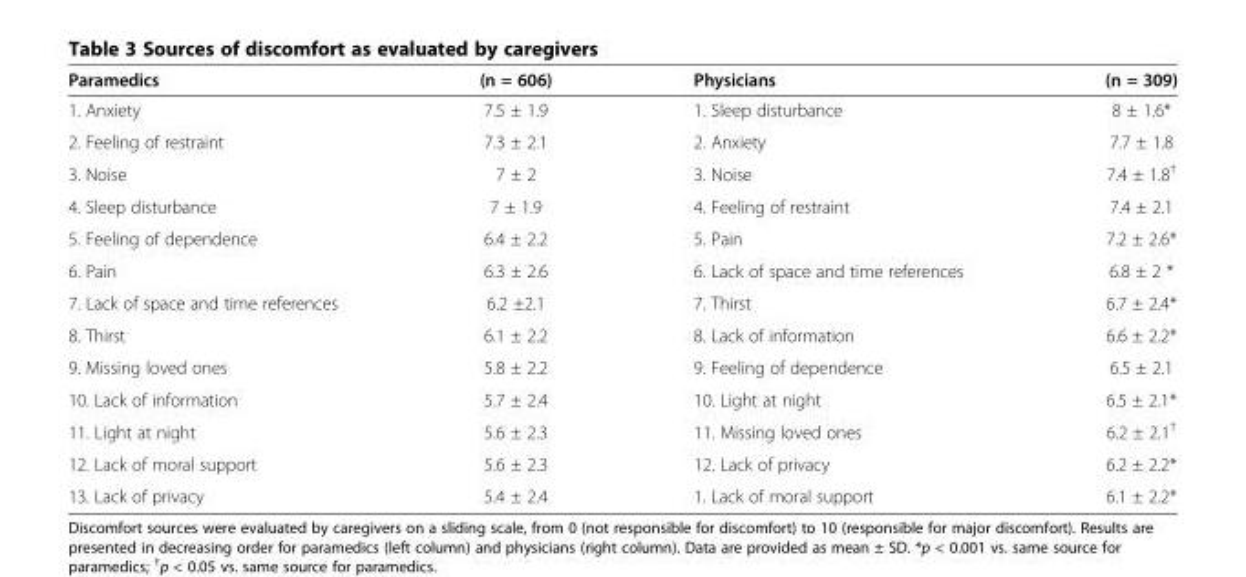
<table><thead><tr><td>Paramedics</td><td>(n = 606)</td><td>Physicians</td><td>(n = 309)</td></tr></thead><tbody><tr><td>1. Anxiety</td><td>7.5 ± 1.9</td><td>1. Sleep disturbance</td><td>8 ± 1.6*</td></tr><tr><td>2. Feeling of restraint</td><td>7.3 ± 2.1</td><td>2. Anxiety</td><td>7.7 ± 1.8</td></tr><tr><td>3. Noise</td><td>7 ± 2</td><td>3. Noise</td><td>7.4 ± 1.8<sup>†</sup></td></tr><tr><td>4. Sleep disturbance</td><td>7 ± 1.9</td><td>4. Feeling of restraint</td><td>7.4 ± 2.1</td></tr><tr><td>5. Feeling of dependence</td><td>6.4 ± 2.2</td><td>5. Pain</td><td>7.2 ± 2.6*</td></tr><tr><td>6. Pain</td><td>6.3 ± 2.6</td><td>6. Lack of space and time references</td><td>6.8 ± 2 *</td></tr><tr><td>7. Lack of space and time references</td><td>6.2 ±2.1</td><td>7. Thirst</td><td>6.7 ± 2.4*</td></tr><tr><td>8. Thirst</td><td>6.1 ± 2.2</td><td>8. Lack of information</td><td>6.6 ± 2.2*</td></tr><tr><td>9. Missing loved ones</td><td>5.8 ± 2.2</td><td>9. Feeling of dependence</td><td>6.5 ± 2.1</td></tr><tr><td>10. Lack of information</td><td>5.7 ± 2.4</td><td>10. Light at night</td><td>6.5 ± 2.1*</td></tr><tr><td>11. Light at night</td><td>5.6 ± 2.3</td><td>11. Missing loved ones</td><td>6.2 ± 2.1<sup>†</sup></td></tr><tr><td>12. Lack of moral support</td><td>5.6 ± 2.3</td><td>12. Lack of privacy</td><td>6.2 ± 2.2*</td></tr><tr><td>13. Lack of privacy</td><td>5.4 ± 2.4</td><td>1. Lack of moral support</td><td>6.1 ± 2.2*</td></tr></tbody></table>